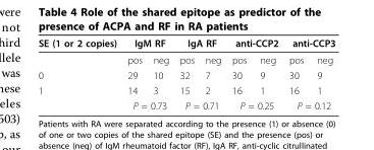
<table><thead><tr><td rowspan="2">SE (1 or 2 copies)</td><td colspan="2">IgM RF</td><td colspan="2">IgA RF</td><td colspan="2">anti-CCP2</td><td colspan="2">anti-CCP3</td></tr><tr><td>pos</td><td>neg</td><td>pos</td><td>neg</td><td>pos</td><td>neg</td><td>pos</td><td>neg</td></tr></thead><tbody><tr><td>0</td><td>29</td><td>10</td><td>32</td><td>7</td><td>30</td><td>9</td><td>30</td><td>9</td></tr><tr><td rowspan="2">1</td><td>14</td><td>3</td><td>15</td><td>2</td><td>16</td><td>1</td><td>16</td><td>1</td></tr><tr><td colspan="2">P = 0.73</td><td colspan="2">P = 0.71</td><td colspan="2">P = 0.25</td><td colspan="2">P = 0.12</td></tr></tbody></table>